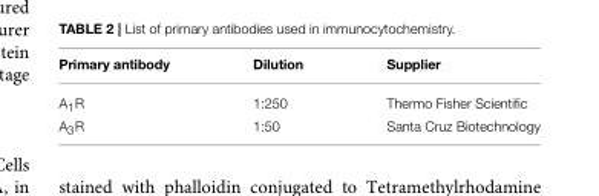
<table><thead><tr><td>Primary antibody</td><td>Dilution</td><td>Supplier</td></tr></thead><tbody><tr><td>A<sub>1</sub>R</td><td>1:250</td><td>Thermo Fisher Scientific</td></tr><tr><td>A<sub>3</sub>R</td><td>1:50</td><td>Santa Cruz Biotechnology</td></tr></tbody></table>